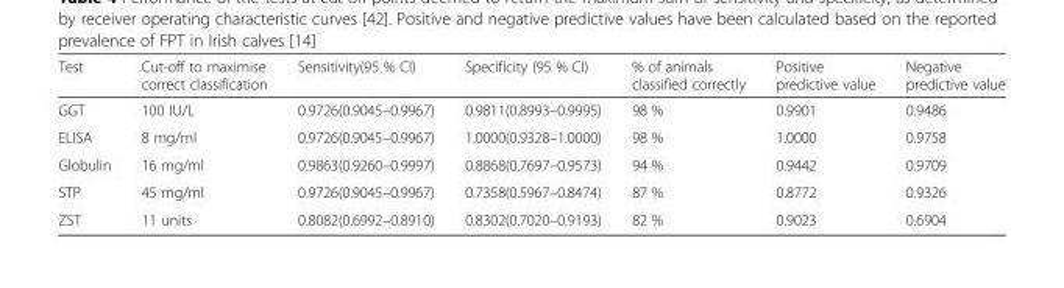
<table><thead><tr><td>Test</td><td>Cut-off to maximise correct classification</td><td>Sensitivity(95 % CI)</td><td>Specificity (95 % CI)</td><td>% of animals classified correctly</td><td>Positive predictive value</td><td>Negative predictive value</td></tr></thead><tbody><tr><td>GGT</td><td>100 IU/L</td><td>0.9726(0.9045–0.9967)</td><td>0.9811(0.8993–0.9995)</td><td>98 %</td><td>0.9901</td><td>0.9486</td></tr><tr><td>ELISA</td><td>8 mg/ml</td><td>0.9726(0.9045–0.9967)</td><td>1.0000(0.9328–1.0000)</td><td>98 %</td><td>1.0000</td><td>0.9758</td></tr><tr><td>Globulin</td><td>16 mg/ml</td><td>0.9863(0.9260–0.9997)</td><td>0.8868(0.7697–0.9573)</td><td>94 %</td><td>0.9442</td><td>0.9709</td></tr><tr><td>STP</td><td>45 mg/ml</td><td>0.9726(0.9045–0.9967)</td><td>0.7358(0.5967–0.8474)</td><td>87 %</td><td>0.8772</td><td>0.9326</td></tr><tr><td>ZST</td><td>11 units</td><td>0.8082(0.6992–0.8910)</td><td>0.8302(0.7020–0.9193)</td><td>82 %</td><td>0.9023</td><td>0.6904</td></tr></tbody></table>